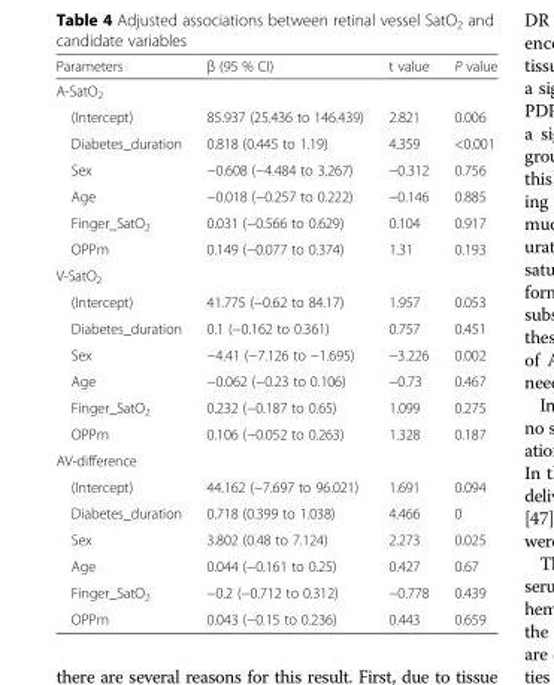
<table><thead><tr><td>Parameters</td><td>β (95 % CI)</td><td>t value</td><td>P value</td></tr></thead><tbody><tr><td colspan="4">A-SatO<sub>2</sub></td></tr><tr><td>(Intercept)</td><td>85.937 (25.436 to 146.439)</td><td>2.821</td><td>0.006</td></tr><tr><td>Diabetes_duration</td><td>0.818 (0.445 to 1.19)</td><td>4.359</td><td>&lt;0.001</td></tr><tr><td>Sex</td><td>−0.608 (−4.484 to 3.267)</td><td>−0.312</td><td>0.756</td></tr><tr><td>Age</td><td>−0.018 (−0.257 to 0.222)</td><td>−0.146</td><td>0.885</td></tr><tr><td>Finger_SatO<sub>2</sub></td><td>0.031 (−0.566 to 0.629)</td><td>0.104</td><td>0.917</td></tr><tr><td>OPPm</td><td>0.149 (−0.077 to 0.374)</td><td>1.31</td><td>0.193</td></tr><tr><td colspan="4">V-SatO<sub>2</sub></td></tr><tr><td>(Intercept)</td><td>41.775 (−0.62 to 84.17)</td><td>1.957</td><td>0.053</td></tr><tr><td>Diabetes_duration</td><td>0.1 (−0.162 to 0.361)</td><td>0.757</td><td>0.451</td></tr><tr><td>Sex</td><td>−4.41 (−7.126 to −1.695)</td><td>−3.226</td><td>0.002</td></tr><tr><td>Age</td><td>−0.062 (−0.23 to 0.106)</td><td>−0.73</td><td>0.467</td></tr><tr><td>Finger_SatO<sub>2</sub></td><td>0.232 (−0.187 to 0.65)</td><td>1.099</td><td>0.275</td></tr><tr><td>OPPm</td><td>0.106 (−0.052 to 0.263)</td><td>1.328</td><td>0.187</td></tr><tr><td colspan="4">AV-difference</td></tr><tr><td>(Intercept)</td><td>44.162 (−7.697 to 96.021)</td><td>1.691</td><td>0.094</td></tr><tr><td>Diabetes_duration</td><td>0.718 (0.399 to 1.038)</td><td>4.466</td><td>0</td></tr><tr><td>Sex</td><td>3.802 (0.48 to 7.124)</td><td>2.273</td><td>0.025</td></tr><tr><td>Age</td><td>0.044 (−0.161 to 0.25)</td><td>0.427</td><td>0.67</td></tr><tr><td>Finger_SatO<sub>2</sub></td><td>−0.2 (−0.712 to 0.312)</td><td>−0.778</td><td>0.439</td></tr><tr><td>OPPm</td><td>0.043 (−0.15 to 0.236)</td><td>0.443</td><td>0.659</td></tr></tbody></table>